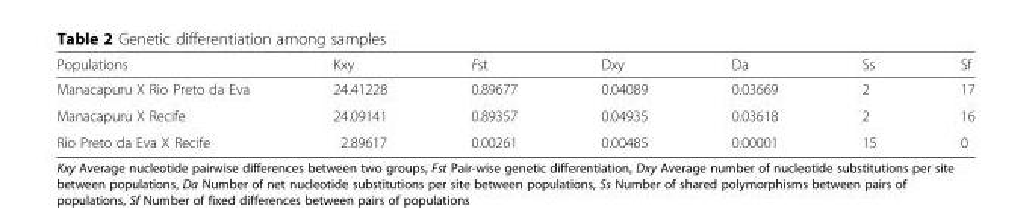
<table><thead><tr><td>Populations</td><td>Kxy</td><td>Fst</td><td>Dxy</td><td>Da</td><td>Ss</td><td>Sf</td></tr></thead><tbody><tr><td>Manacapuru X Rio Preto da Eva</td><td>24.41228</td><td>0.89677</td><td>0.04089</td><td>0.03669</td><td>2</td><td>17</td></tr><tr><td>Manacapuru X Recife</td><td>24.09141</td><td>0.89357</td><td>0.04935</td><td>0.03618</td><td>2</td><td>16</td></tr><tr><td>Rio Preto da Eva X Recife</td><td>2.89617</td><td>0.00261</td><td>0.00485</td><td>0.00001</td><td>15</td><td>0</td></tr></tbody></table>